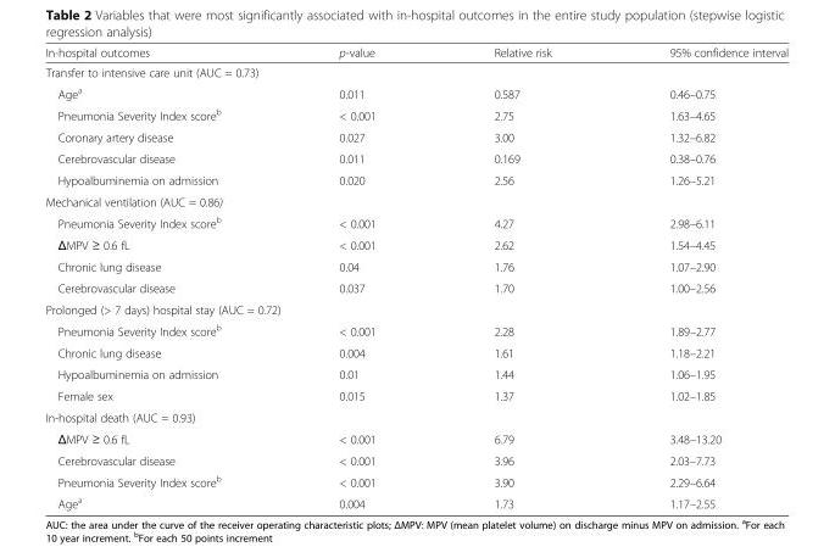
<table><thead><tr><td>In-hospital outcomes</td><td>p-value</td><td>Relative risk</td><td>95% confidence interval</td></tr></thead><tbody><tr><td colspan="4">Transfer to intensive care unit (AUC = 0.73)</td></tr><tr><td>Age<sup>a</sup></td><td>0.011</td><td>0.587</td><td>0.46–0.75</td></tr><tr><td>Pneumonia Severity Index score<sup>b</sup></td><td>&lt; 0.001</td><td>2.75</td><td>1.63–4.65</td></tr><tr><td>Coronary artery disease</td><td>0.027</td><td>3.00</td><td>1.32–6.82</td></tr><tr><td>Cerebrovascular disease</td><td>0.011</td><td>0.169</td><td>0.38–0.76</td></tr><tr><td>Hypoalbuminemia on admission</td><td>0.020</td><td>2.56</td><td>1.26–5.21</td></tr><tr><td colspan="4">Mechanical ventilation (AUC = 0.86)</td></tr><tr><td>Pneumonia Severity Index score<sup>b</sup></td><td>&lt; 0.001</td><td>4.27</td><td>2.98–6.11</td></tr><tr><td>ΔMPV ≥ 0.6 fL</td><td>&lt; 0.001</td><td>2.62</td><td>1.54–4.45</td></tr><tr><td>Chronic lung disease</td><td>0.04</td><td>1.76</td><td>1.07–2.90</td></tr><tr><td>Cerebrovascular disease</td><td>0.037</td><td>1.70</td><td>1.00–2.56</td></tr><tr><td colspan="4">Prolonged (&gt; 7 days) hospital stay (AUC = 0.72)</td></tr><tr><td>Pneumonia Severity Index score<sup>b</sup></td><td>&lt; 0.001</td><td>2.28</td><td>1.89–2.77</td></tr><tr><td>Chronic lung disease</td><td>0.004</td><td>1.61</td><td>1.18–2.21</td></tr><tr><td>Hypoalbuminemia on admission</td><td>0.01</td><td>1.44</td><td>1.06–1.95</td></tr><tr><td>Female sex</td><td>0.015</td><td>1.37</td><td>1.02–1.85</td></tr><tr><td colspan="4">In-hospital death (AUC = 0.93)</td></tr><tr><td>ΔMPV ≥ 0.6 fL</td><td>&lt; 0.001</td><td>6.79</td><td>3.48–13.20</td></tr><tr><td>Cerebrovascular disease</td><td>&lt; 0.001</td><td>3.96</td><td>2.03–7.73</td></tr><tr><td>Pneumonia Severity Index score<sup>b</sup></td><td>&lt; 0.001</td><td>3.90</td><td>2.29–6.64</td></tr><tr><td>Age<sup>a</sup></td><td>0.004</td><td>1.73</td><td>1.17–2.55</td></tr></tbody></table>